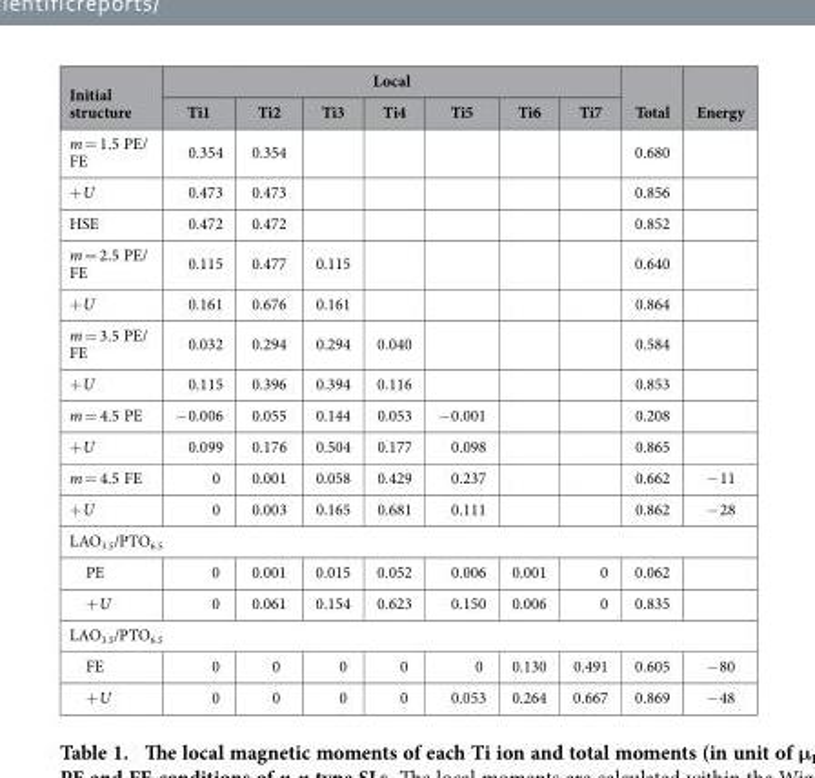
<table><thead><tr><td rowspan="2">Initial structure</td><td colspan="7">Local</td><td rowspan="2">Total</td><td rowspan="2">Energy</td></tr><tr><td>Ti1</td><td>Ti2</td><td>Ti3</td><td>Ti4</td><td>Ti5</td><td>Ti6</td><td>Ti7</td></tr></thead><tbody><tr><td>m = 1.5 PE/ FE</td><td>0.354</td><td>0.354</td><td></td><td></td><td></td><td></td><td></td><td>0.680</td><td></td></tr><tr><td>+ U</td><td>0.473</td><td>0.473</td><td></td><td></td><td></td><td></td><td></td><td>0.856</td><td></td></tr><tr><td>HSE</td><td>0.472</td><td>0.472</td><td></td><td></td><td></td><td></td><td></td><td>0.852</td><td></td></tr><tr><td>m = 2.5 PE/ FE</td><td>0.115</td><td>0.477</td><td>0.115</td><td></td><td></td><td></td><td></td><td>0.640</td><td></td></tr><tr><td>+ U</td><td>0.161</td><td>0.676</td><td>0.161</td><td></td><td></td><td></td><td></td><td>0.864</td><td></td></tr><tr><td>m = 3.5 PE/ FE</td><td>0.032</td><td>0.294</td><td>0.294</td><td>0.040</td><td></td><td></td><td></td><td>0.584</td><td></td></tr><tr><td>+ U</td><td>0.115</td><td>0.396</td><td>0.394</td><td>0.116</td><td></td><td></td><td></td><td>0.853</td><td></td></tr><tr><td>m = 4.5 PE</td><td>− 0.006</td><td>0.055</td><td>0.144</td><td>0.053</td><td>− 0.001</td><td></td><td></td><td>0.208</td><td></td></tr><tr><td>+ U</td><td>0.099</td><td>0.176</td><td>0.504</td><td>0.177</td><td>0.098</td><td></td><td></td><td>0.865</td><td></td></tr><tr><td>m = 4.5 FE</td><td>0</td><td>0.001</td><td>0.058</td><td>0.429</td><td>0.237</td><td></td><td></td><td>0.662</td><td>− 11</td></tr><tr><td>+ U</td><td>0</td><td>0.003</td><td>0.165</td><td>0.681</td><td>0.111</td><td></td><td></td><td>0.862</td><td>− 28</td></tr><tr><td colspan="10">LAO<sub>3.5</sub>/PTO<sub>6.5</sub></td></tr><tr><td>PE</td><td>0</td><td>0.001</td><td>0.015</td><td>0.052</td><td>0.006</td><td>0.001</td><td>0</td><td>0.062</td><td></td></tr><tr><td>+ U</td><td>0</td><td>0.061</td><td>0.154</td><td>0.623</td><td>0.150</td><td>0.006</td><td>0</td><td>0.835</td><td></td></tr><tr><td colspan="10">LAO<sub>3.5</sub>/PTO<sub>6.5</sub></td></tr><tr><td>FE</td><td>0</td><td>0</td><td>0</td><td>0</td><td>0</td><td>0.130</td><td>0.491</td><td>0.605</td><td>− 80</td></tr><tr><td>+ U</td><td>0</td><td>0</td><td>0</td><td>0</td><td>0.053</td><td>0.264</td><td>0.667</td><td>0.869</td><td>− 48</td></tr></tbody></table>